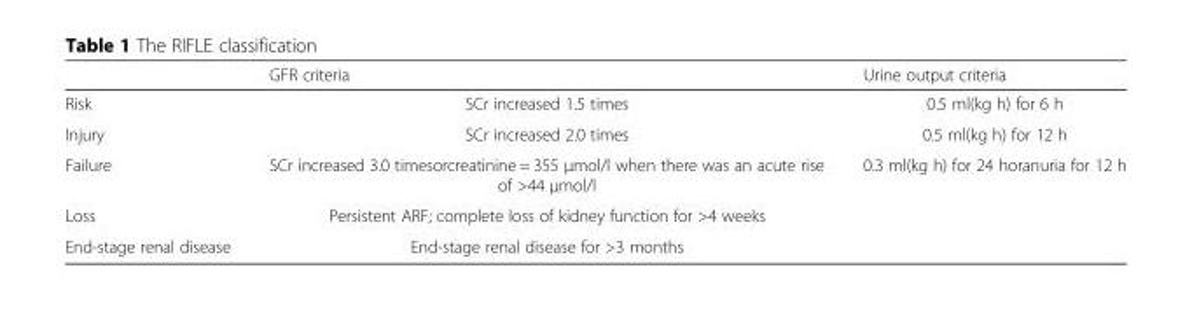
<table><thead><tr><td></td><td>GFR criteria</td><td>Urine output criteria</td></tr></thead><tbody><tr><td>Risk</td><td>SCr increased 1.5 times</td><td>0.5 ml(kg h) for 6 h</td></tr><tr><td>Injury</td><td>SCr increased 2.0 times</td><td>0.5 ml(kg h) for 12 h</td></tr><tr><td>Failure</td><td>SCr increased 3.0 timesorcreatinine = 355 μmol/l when there was an acute rise of &gt;44 μmol/l</td><td>0.3 ml(kg h) for 24 horanuria for 12 h</td></tr><tr><td>Loss</td><td>Persistent ARF; complete loss of kidney function for &gt;4 weeks</td><td></td></tr><tr><td>End-stage renal disease</td><td>End-stage renal disease for &gt;3 months</td><td></td></tr></tbody></table>